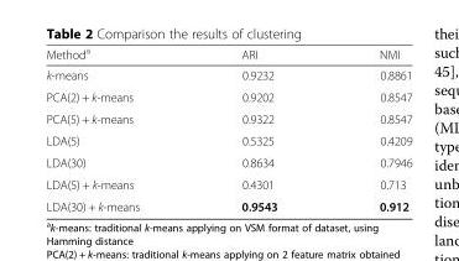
<table><thead><tr><td>Method<sup>a</sup></td><td>ARI</td><td>NMI</td></tr></thead><tbody><tr><td>k-means</td><td>0.9232</td><td>0.8861</td></tr><tr><td>PCA(2) + k-means</td><td>0.9202</td><td>0.8547</td></tr><tr><td>PCA(5) + k-means</td><td>0.9322</td><td>0.8547</td></tr><tr><td>LDA(5)</td><td>0.5325</td><td>0.4209</td></tr><tr><td>LDA(30)</td><td>0.8634</td><td>0.7946</td></tr><tr><td>LDA(5) + k-means</td><td>0.4301</td><td>0.713</td></tr><tr><td>LDA(30) + k-means</td><td>0.9543</td><td>0.912</td></tr></tbody></table>